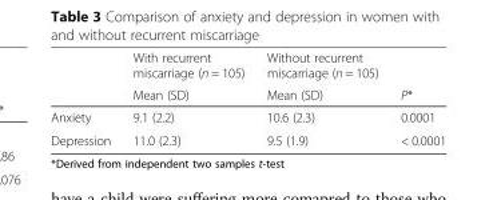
<table><thead><tr><td rowspan="2"></td><td rowspan="2">With recurrent miscarriage (n = 105) Mean (SD)</td><td rowspan="2">Without recurrent miscarriage (n = 105) Mean (SD)</td><td rowspan="2">P*</td></tr><tr></tr></thead><tbody><tr><td>Anxiety</td><td>9.1 (2.2)</td><td>10.6 (2.3)</td><td>0.0001</td></tr><tr><td>Depression</td><td>11.0 (2.3)</td><td>9.5 (1.9)</td><td>&lt; 0.0001</td></tr></tbody></table>